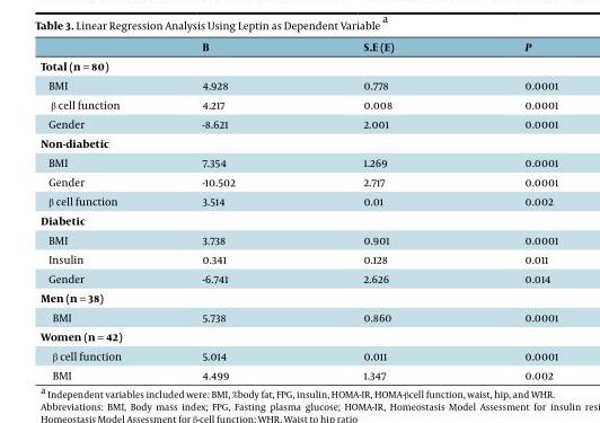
<table><thead><tr><td></td><td>B</td><td>S.E (E)</td><td>P</td></tr></thead><tbody><tr><td colspan="4">Total (n = 80)</td></tr><tr><td>BMI</td><td>4.928</td><td>0.778</td><td>0.0001</td></tr><tr><td>β cell function</td><td>4.217</td><td>0.008</td><td>0.0001</td></tr><tr><td>Gender</td><td>-8.621</td><td>2.001</td><td>0.0001</td></tr><tr><td colspan="4">Non-diabetic</td></tr><tr><td>BMI</td><td>7.354</td><td>1.269</td><td>0.0001</td></tr><tr><td>Gender</td><td>-10.502</td><td>2.717</td><td>0.0001</td></tr><tr><td>β cell function</td><td>3.514</td><td>0.01</td><td>0.002</td></tr><tr><td colspan="4">Diabetic</td></tr><tr><td>BMI</td><td>3.738</td><td>0.901</td><td>0.0001</td></tr><tr><td>Insulin</td><td>0.341</td><td>0.128</td><td>0.011</td></tr><tr><td>Gender</td><td>-6.741</td><td>2.626</td><td>0.014</td></tr><tr><td colspan="4">Men (n = 38)</td></tr><tr><td>BMI</td><td>5.738</td><td>0.860</td><td>0.0001</td></tr><tr><td colspan="4">Women (n = 42)</td></tr><tr><td>β cell function</td><td>5.014</td><td>0.011</td><td>0.0001</td></tr><tr><td>BMI</td><td>4.499</td><td>1.347</td><td>0.002</td></tr></tbody></table>